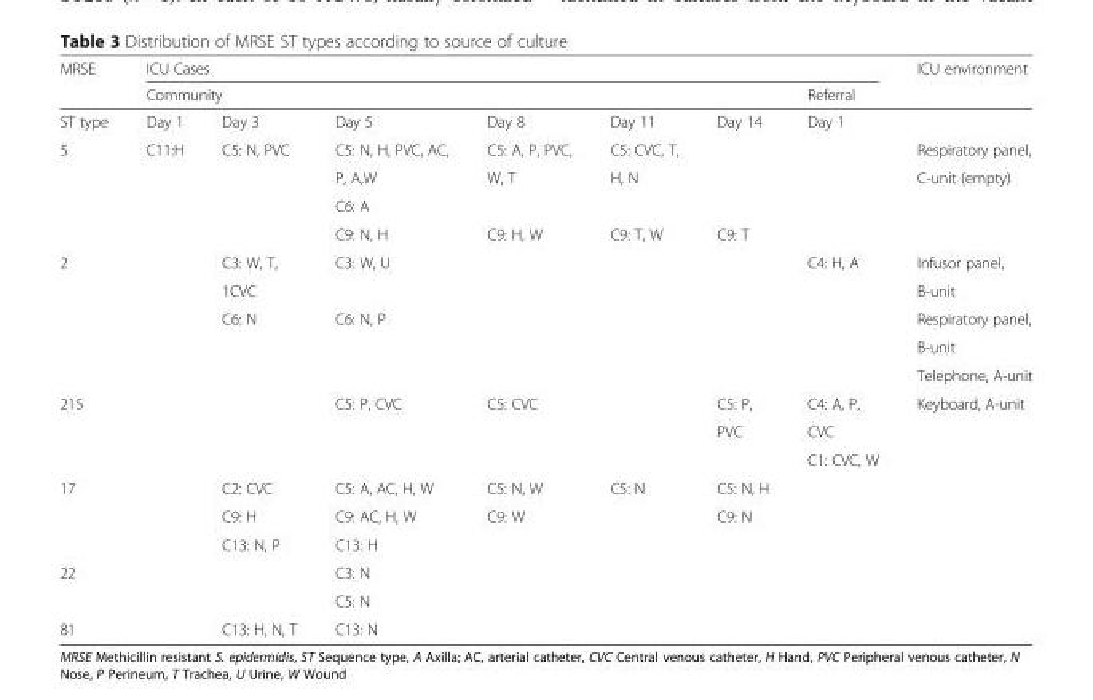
<table><thead><tr><td rowspan="3">MRSE ST type</td><td colspan="7">ICU Cases</td><td rowspan="3">ICU environment</td></tr><tr><td colspan="6">Community</td><td rowspan="2">Referral Day 1</td></tr><tr><td>Day 1</td><td>Day 3</td><td>Day 5</td><td>Day 8</td><td>Day 11</td><td>Day 14</td></tr></thead><tbody><tr><td rowspan="4">5</td><td rowspan="4">C11:H</td><td rowspan="4">C5: N, PVC</td><td>C5: N, H, PVC, AC,</td><td>C5: A, P, PVC,</td><td>C5: CVC, T,</td><td></td><td></td><td>Respiratory panel,</td></tr><tr><td>P, A,W</td><td>W, T</td><td>H, N</td><td></td><td></td><td>C-unit (empty)</td></tr><tr><td>C6: A</td><td></td><td></td><td></td><td></td><td></td></tr><tr><td>C9: N, H</td><td>C9: H, W</td><td>C9: T, W</td><td>C9: T</td><td></td><td></td></tr><tr><td rowspan="5">2</td><td rowspan="5"></td><td>C3: W, T,</td><td>C3: W, U</td><td></td><td></td><td></td><td>C4: H, A</td><td>Infusor panel,</td></tr><tr><td>1CVC</td><td></td><td></td><td></td><td></td><td></td><td>B-unit</td></tr><tr><td>C6: N</td><td>C6: N, P</td><td></td><td></td><td></td><td></td><td>Respiratory panel,</td></tr><tr><td></td><td></td><td></td><td></td><td></td><td></td><td>B-unit</td></tr><tr><td></td><td></td><td></td><td></td><td></td><td></td><td>Telephone, A-unit</td></tr><tr><td rowspan="3">215</td><td rowspan="3"></td><td></td><td>C5: P, CVC</td><td>C5: CVC</td><td></td><td>C5: P,</td><td>C4: A, P,</td><td>Keyboard, A-unit</td></tr><tr><td></td><td></td><td></td><td></td><td>PVC</td><td>CVC</td><td></td></tr><tr><td></td><td></td><td></td><td></td><td></td><td>C1: CVC, W</td><td></td></tr><tr><td rowspan="3">17</td><td rowspan="3"></td><td>C2: CVC</td><td>C5: A, AC, H, W</td><td>C5: N, W</td><td>C5: N</td><td>C5: N, H</td><td></td><td></td></tr><tr><td>C9: H</td><td>C9: AC, H, W</td><td>C9: W</td><td></td><td>C9: N</td><td></td><td></td></tr><tr><td>C13: N, P</td><td>C13: H</td><td></td><td></td><td></td><td></td><td></td></tr><tr><td rowspan="2">22</td><td rowspan="2"></td><td></td><td>C3: N</td><td></td><td></td><td></td><td></td><td></td></tr><tr><td></td><td>C5: N</td><td></td><td></td><td></td><td></td><td></td></tr><tr><td>81</td><td></td><td>C13: H, N, T</td><td>C13: N</td><td></td><td></td><td></td><td></td><td></td></tr></tbody></table>